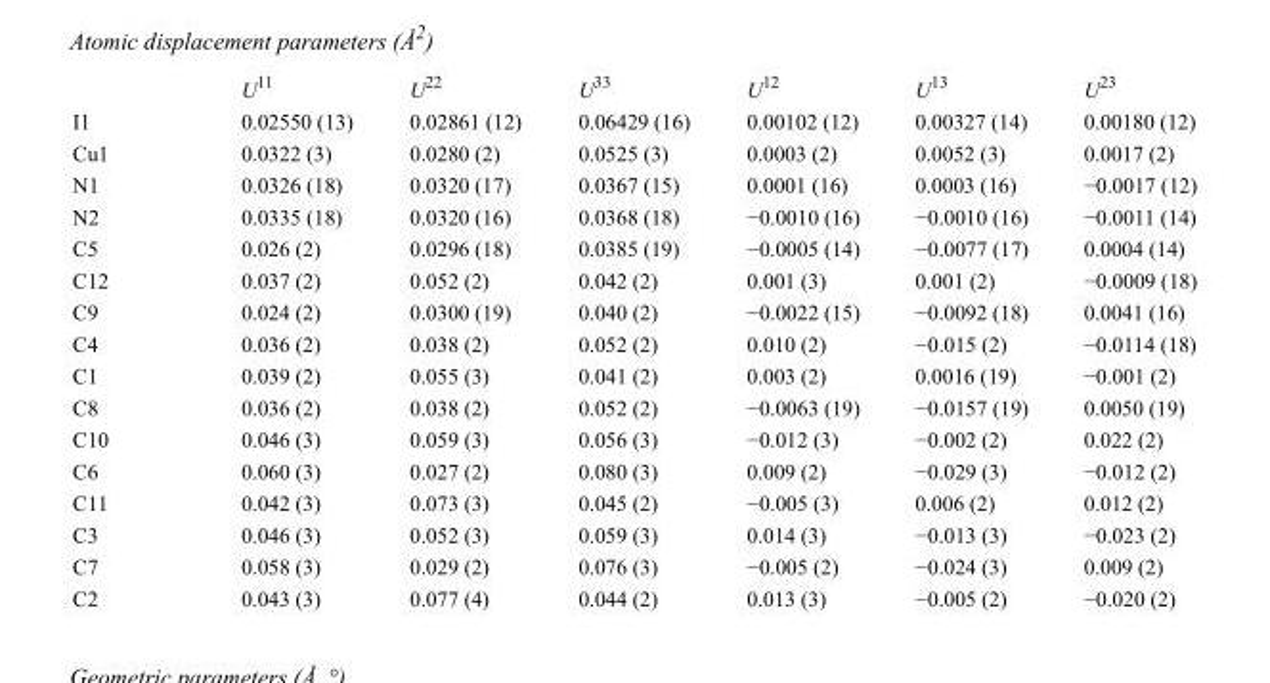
<table><thead><tr><td></td><td>U<sup>11</sup></td><td>U<sup>22</sup></td><td>U<sup>33</sup></td><td>U<sup>12</sup></td><td>U<sup>13</sup></td><td>U<sup>23</sup></td></tr></thead><tbody><tr><td>I1</td><td>0.02550 (13)</td><td>0.02861 (12)</td><td>0.06429 (16)</td><td>0.00102 (12)</td><td>0.00327 (14)</td><td>0.00180 (12)</td></tr><tr><td>Cu1</td><td>0.0322 (3)</td><td>0.0280 (2)</td><td>0.0525 (3)</td><td>0.0003 (2)</td><td>0.0052 (3)</td><td>0.0017 (2)</td></tr><tr><td>N1</td><td>0.0326 (18)</td><td>0.0320 (17)</td><td>0.0367 (15)</td><td>0.0001 (16)</td><td>0.0003 (16)</td><td>−0.0017 (12)</td></tr><tr><td>N2</td><td>0.0335 (18)</td><td>0.0320 (16)</td><td>0.0368 (18)</td><td>−0.0010 (16)</td><td>−0.0010 (16)</td><td>−0.0011 (14)</td></tr><tr><td>C5</td><td>0.026 (2)</td><td>0.0296 (18)</td><td>0.0385 (19)</td><td>−0.0005 (14)</td><td>−0.0077 (17)</td><td>0.0004 (14)</td></tr><tr><td>C12</td><td>0.037 (2)</td><td>0.052 (2)</td><td>0.042 (2)</td><td>0.001 (3)</td><td>0.001 (2)</td><td>−0.0009 (18)</td></tr><tr><td>C9</td><td>0.024 (2)</td><td>0.0300 (19)</td><td>0.040 (2)</td><td>−0.0022 (15)</td><td>−0.0092 (18)</td><td>0.0041 (16)</td></tr><tr><td>C4</td><td>0.036 (2)</td><td>0.038 (2)</td><td>0.052 (2)</td><td>0.010 (2)</td><td>−0.015 (2)</td><td>−0.0114 (18)</td></tr><tr><td>C1</td><td>0.039 (2)</td><td>0.055 (3)</td><td>0.041 (2)</td><td>0.003 (2)</td><td>0.0016 (19)</td><td>−0.001 (2)</td></tr><tr><td>C8</td><td>0.036 (2)</td><td>0.038 (2)</td><td>0.052 (2)</td><td>−0.0063 (19)</td><td>−0.0157 (19)</td><td>0.0050 (19)</td></tr><tr><td>C10</td><td>0.046 (3)</td><td>0.059 (3)</td><td>0.056 (3)</td><td>−0.012 (3)</td><td>−0.002 (2)</td><td>0.022 (2)</td></tr><tr><td>C6</td><td>0.060 (3)</td><td>0.027 (2)</td><td>0.080 (3)</td><td>0.009 (2)</td><td>−0.029 (3)</td><td>−0.012 (2)</td></tr><tr><td>C11</td><td>0.042 (3)</td><td>0.073 (3)</td><td>0.045 (2)</td><td>−0.005 (3)</td><td>0.006 (2)</td><td>0.012 (2)</td></tr><tr><td>C3</td><td>0.046 (3)</td><td>0.052 (3)</td><td>0.059 (3)</td><td>0.014 (3)</td><td>−0.013 (3)</td><td>−0.023 (2)</td></tr><tr><td>C7</td><td>0.058 (3)</td><td>0.029 (2)</td><td>0.076 (3)</td><td>−0.005 (2)</td><td>−0.024 (3)</td><td>0.009 (2)</td></tr><tr><td>C2</td><td>0.043 (3)</td><td>0.077 (4)</td><td>0.044 (2)</td><td>0.013 (3)</td><td>−0.005 (2)</td><td>−0.020 (2)</td></tr></tbody></table>